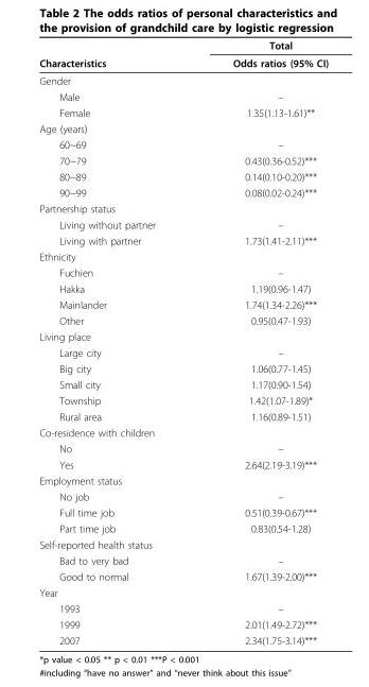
<table><thead><tr><td rowspan="2">Characteristics</td><td rowspan="2">Total Odds ratios (95% CI)</td></tr><tr></tr></thead><tbody><tr><td colspan="2">Gender</td></tr><tr><td>Male</td><td>–</td></tr><tr><td>Female</td><td>1.35(1.13-1.61)**</td></tr><tr><td colspan="2">Age (years)</td></tr><tr><td>60~69</td><td>–</td></tr><tr><td>70~79</td><td>0.43(0.36-0.52)***</td></tr><tr><td>80~89</td><td>0.14(0.10-0.20)***</td></tr><tr><td>90~99</td><td>0.08(0.02-0.24)***</td></tr><tr><td colspan="2">Partnership status</td></tr><tr><td>Living without partner</td><td>–</td></tr><tr><td>Living with partner</td><td>1.73(1.41-2.11)***</td></tr><tr><td colspan="2">Ethnicity</td></tr><tr><td>Fuchien</td><td>–</td></tr><tr><td>Hakka</td><td>1.19(0.96-1.47)</td></tr><tr><td>Mainlander</td><td>1.74(1.34-2.26)***</td></tr><tr><td>Other</td><td>0.95(0.47-1.93)</td></tr><tr><td colspan="2">Living place</td></tr><tr><td>Large city</td><td>–</td></tr><tr><td>Big city</td><td>1.06(0.77-1.45)</td></tr><tr><td>Small city</td><td>1.17(0.90-1.54)</td></tr><tr><td>Township</td><td>1.42(1.07-1.89)*</td></tr><tr><td>Rural area</td><td>1.16(0.89-1.51)</td></tr><tr><td colspan="2">Co-residence with children</td></tr><tr><td>No</td><td>–</td></tr><tr><td>Yes</td><td>2.64(2.19-3.19)***</td></tr><tr><td colspan="2">Employment status</td></tr><tr><td>No job</td><td>–</td></tr><tr><td>Full time job</td><td>0.51(0.39-0.67)***</td></tr><tr><td>Part time job</td><td>0.83(0.54-1.28)</td></tr><tr><td colspan="2">Self-reported health status</td></tr><tr><td>Bad to very bad</td><td>–</td></tr><tr><td>Good to normal</td><td>1.67(1.39-2.00)***</td></tr><tr><td colspan="2">Year</td></tr><tr><td>1993</td><td>–</td></tr><tr><td>1999</td><td>2.01(1.49-2.72)***</td></tr><tr><td>2007</td><td>2.34(1.75-3.14)***</td></tr></tbody></table>